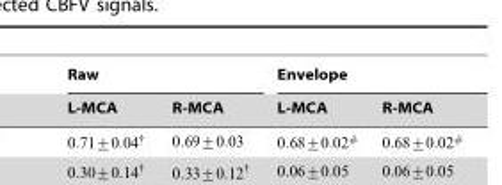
<table><thead><tr><td colspan="2">Raw</td><td colspan="2">Envelope</td></tr><tr><td>L-MCA</td><td>R-MCA</td><td>L-MCA</td><td>R-MCA</td></tr></thead><tbody></tbody></table>